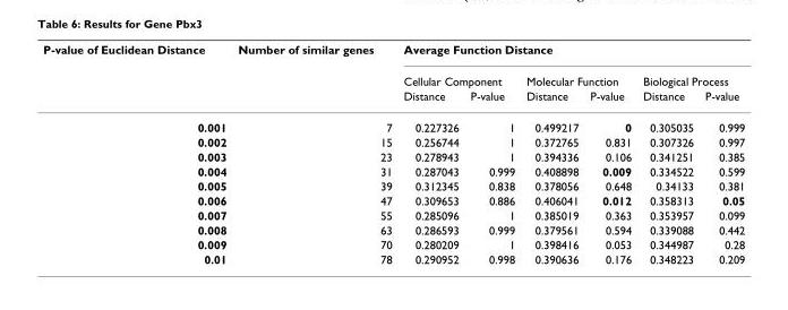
<table><thead><tr><td rowspan="3">P-value of Euclidean Distance</td><td rowspan="3">Number of similar genes</td><td colspan="6">Average Function Distance</td></tr><tr><td colspan="2">Cellular Component</td><td colspan="2">Molecular Function</td><td colspan="2">Biological Process</td></tr><tr><td>Distance</td><td>P-value</td><td>Distance</td><td>P-value</td><td>Distance</td><td>P-value</td></tr></thead><tbody><tr><td>0.001</td><td>7</td><td>0.227326</td><td>1</td><td>0.499217</td><td>0</td><td>0.305035</td><td>0.999</td></tr><tr><td>0.002</td><td>15</td><td>0.256744</td><td>1</td><td>0.372765</td><td>0.831</td><td>0.307326</td><td>0.997</td></tr><tr><td>0.003</td><td>23</td><td>0.278943</td><td>1</td><td>0.394336</td><td>0.106</td><td>0.341251</td><td>0.385</td></tr><tr><td>0.004</td><td>31</td><td>0.287043</td><td>0.999</td><td>0.408898</td><td>0.009</td><td>0.334522</td><td>0.599</td></tr><tr><td>0.005</td><td>39</td><td>0.312345</td><td>0.838</td><td>0.378056</td><td>0.648</td><td>0.34133</td><td>0.381</td></tr><tr><td>0.006</td><td>47</td><td>0.309653</td><td>0.886</td><td>0.406041</td><td>0.012</td><td>0.358313</td><td>0.05</td></tr><tr><td>0.007</td><td>55</td><td>0.285096</td><td>1</td><td>0.385019</td><td>0.363</td><td>0.353957</td><td>0.099</td></tr><tr><td>0.008</td><td>63</td><td>0.286593</td><td>0.999</td><td>0.379561</td><td>0.594</td><td>0.339088</td><td>0.442</td></tr><tr><td>0.009</td><td>70</td><td>0.280209</td><td>1</td><td>0.398416</td><td>0.053</td><td>0.344987</td><td>0.28</td></tr><tr><td>0.01</td><td>78</td><td>0.290952</td><td>0.998</td><td>0.390636</td><td>0.176</td><td>0.348223</td><td>0.209</td></tr></tbody></table>